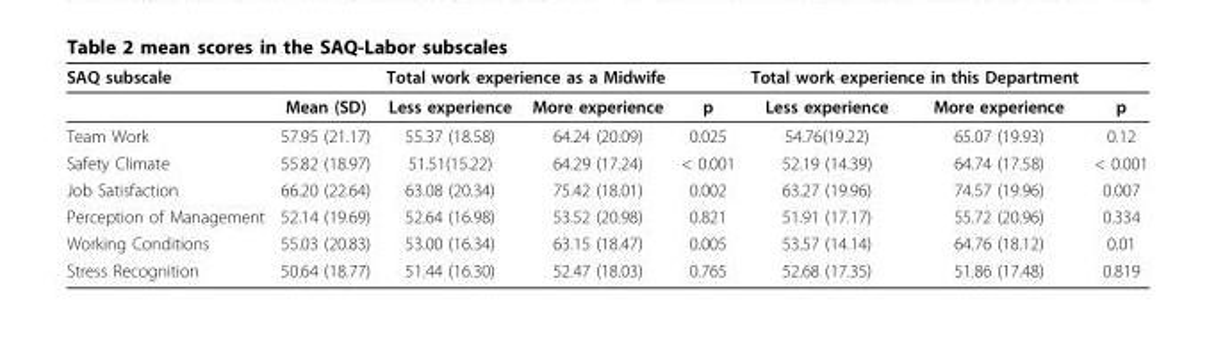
<table><thead><tr><td rowspan="2">SAQ subscale</td><td rowspan="2">Mean (SD)</td><td colspan="2">Total work experience as a Midwife</td><td rowspan="2">p</td><td colspan="2">Total work experience in this Department</td><td rowspan="2">p</td></tr><tr><td>Less experience</td><td>More experience</td><td>Less experience</td><td>More experience</td></tr></thead><tbody><tr><td>Team Work</td><td>57.95 (21.17)</td><td>55.37 (18.58)</td><td>64.24 (20.09)</td><td>0.025</td><td>54.76(19.22)</td><td>65.07 (19.93)</td><td>0.12</td></tr><tr><td>Safety Climate</td><td>55.82 (18.97)</td><td>51.51(15.22)</td><td>64.29 (17.24)</td><td>&lt; 0.001</td><td>52.19 (14.39)</td><td>64.74 (17.58)</td><td>&lt; 0.001</td></tr><tr><td>Job Satisfaction</td><td>66.20 (22.64)</td><td>63.08 (20.34)</td><td>75.42 (18.01)</td><td>0.002</td><td>63.27 (19.96)</td><td>74.57 (19.96)</td><td>0.007</td></tr><tr><td>Perception of Management</td><td>52.14 (19.69)</td><td>52.64 (16.98)</td><td>53.52 (20.98)</td><td>0.821</td><td>51.91 (17.17)</td><td>55.72 (20.96)</td><td>0.334</td></tr><tr><td>Working Conditions</td><td>55.03 (20.83)</td><td>53.00 (16.34)</td><td>63.15 (18.47)</td><td>0.005</td><td>53.57 (14.14)</td><td>64.76 (18.12)</td><td>0.01</td></tr><tr><td>Stress Recognition</td><td>50.64 (18.77)</td><td>51.44 (16.30)</td><td>52.47 (18.03)</td><td>0.765</td><td>52.68 (17.35)</td><td>51.86 (17.48)</td><td>0.819</td></tr></tbody></table>